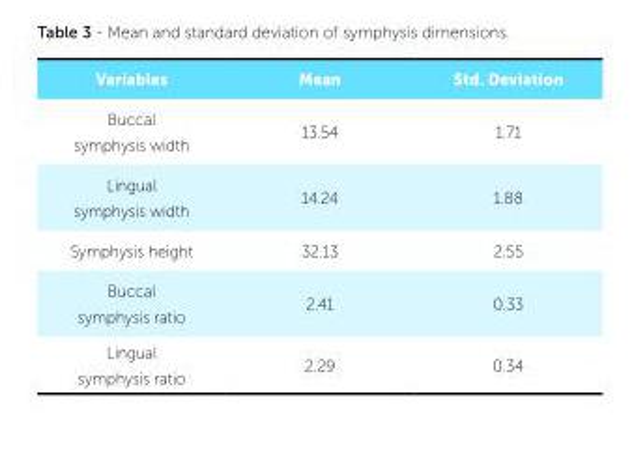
<table><tbody><tr><td>Variables</td><td>Mean</td><td>Std. Deviation</td></tr><tr><td>Buccal symphysis width</td><td>13.54</td><td>1.71</td></tr><tr><td>Lingual symphysis width</td><td>14.24</td><td>1.88</td></tr><tr><td>Symphysis height</td><td>32.13</td><td>2.55</td></tr><tr><td>Buccal symphysis ratio</td><td>2.41</td><td>0.33</td></tr><tr><td>Lingual symphysis ratio</td><td>2.29</td><td>0.34</td></tr></tbody></table>